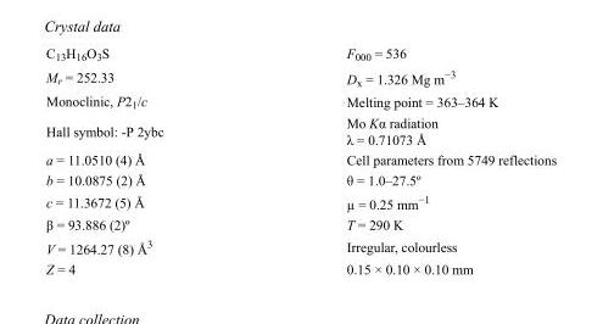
<table><tbody><tr><td>C<sub>13</sub>H<sub>16</sub>O<sub>3</sub>S</td><td>F000 = 536</td></tr><tr><td>M<sub>r</sub> = 252.33</td><td>D<sub>x</sub> = 1.326 Mg m<sup>−3</sup></td></tr><tr><td>Monoclinic, P2<sub>1</sub>/c</td><td>Melting point = 363–364 K</td></tr><tr><td>Hall symbol: -P 2ybc</td><td>Mo Kα radiation λ = 0.71073 Å</td></tr><tr><td>a = 11.0510 (4) Å</td><td>Cell parameters from 5749 reflections</td></tr><tr><td>b = 10.0875 (2) Å</td><td>θ = 1.0–27.5º</td></tr><tr><td>c = 11.3672 (5) Å</td><td>µ = 0.25 mm<sup>−1</sup></td></tr><tr><td>β = 93.886 (2)º</td><td>T = 290 K</td></tr><tr><td>V = 1264.27 (8) Å<sup>3</sup></td><td>Irregular, colourless</td></tr><tr><td>Z = 4</td><td>0.15 × 0.10 × 0.10 mm</td></tr></tbody></table>